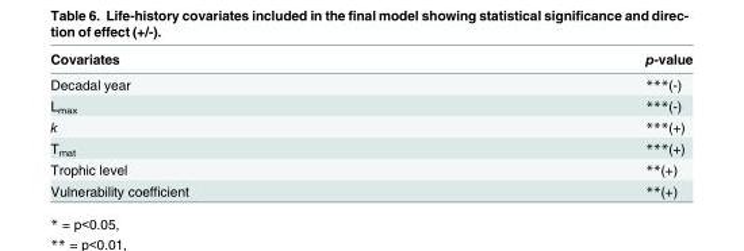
<table><thead><tr><td>Covariates</td><td>p-value</td></tr></thead><tbody><tr><td>Decadal year</td><td>***(-)</td></tr><tr><td>L<sub>max</sub></td><td>***(-)</td></tr><tr><td>k</td><td>***(+)</td></tr><tr><td>T<sub>mat</sub></td><td>***(+)</td></tr><tr><td>Trophic level</td><td>**(+)</td></tr><tr><td>Vulnerability coefficient</td><td>**(+)</td></tr></tbody></table>